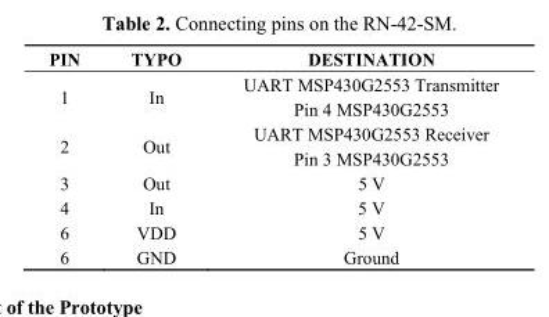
<table><thead><tr><td>PIN</td><td>TYPO</td><td>DESTINATION</td></tr></thead><tbody><tr><td>1</td><td>In</td><td>UART MSP430G2553 Transmitter Pin 4 MSP430G2553</td></tr><tr><td>2</td><td>Out</td><td>UART MSP430G2553 Receiver Pin 3 MSP430G2553</td></tr><tr><td>3</td><td>Out</td><td>5 V</td></tr><tr><td>4</td><td>In</td><td>5 V</td></tr><tr><td>6</td><td>VDD</td><td>5 V</td></tr><tr><td>6</td><td>GND</td><td>Ground</td></tr></tbody></table>